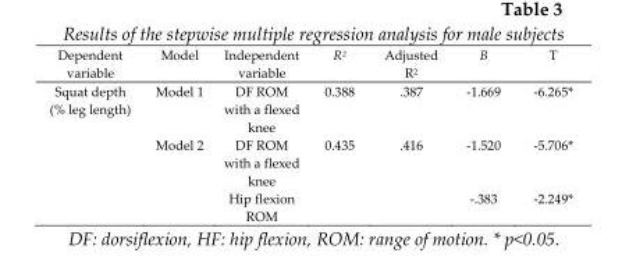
<table><thead><tr><td>Dependent variable</td><td>Model</td><td>Independent variable</td><td>R<sup>2</sup></td><td>Adjusted R<sup>2</sup></td><td>B</td><td>T</td></tr></thead><tbody><tr><td rowspan="3">Squat depth (% leg length)</td><td>Model 1</td><td>DF ROM with a flexed knee</td><td>0.388</td><td>.387</td><td>-1.669</td><td>-6.265*</td></tr><tr><td rowspan="2">Model 2</td><td>DF ROM with a flexed knee</td><td>0.435</td><td>.416</td><td>-1.520</td><td>-5.706*</td></tr><tr><td>Hip flexion ROM</td><td></td><td></td><td>-.383</td><td>-2.249*</td></tr></tbody></table>